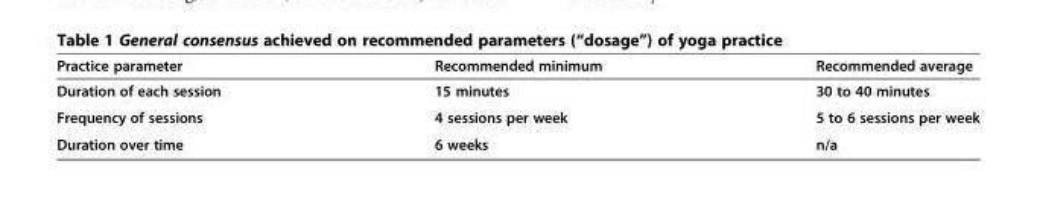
<table><thead><tr><td>Practice parameter</td><td>Recommended minimum</td><td>Recommended average</td></tr></thead><tbody><tr><td>Duration of each session</td><td>15 minutes</td><td>30 to 40 minutes</td></tr><tr><td>Frequency of sessions</td><td>4 sessions per week</td><td>5 to 6 sessions per week</td></tr><tr><td>Duration over time</td><td>6 weeks</td><td>n/a</td></tr></tbody></table>